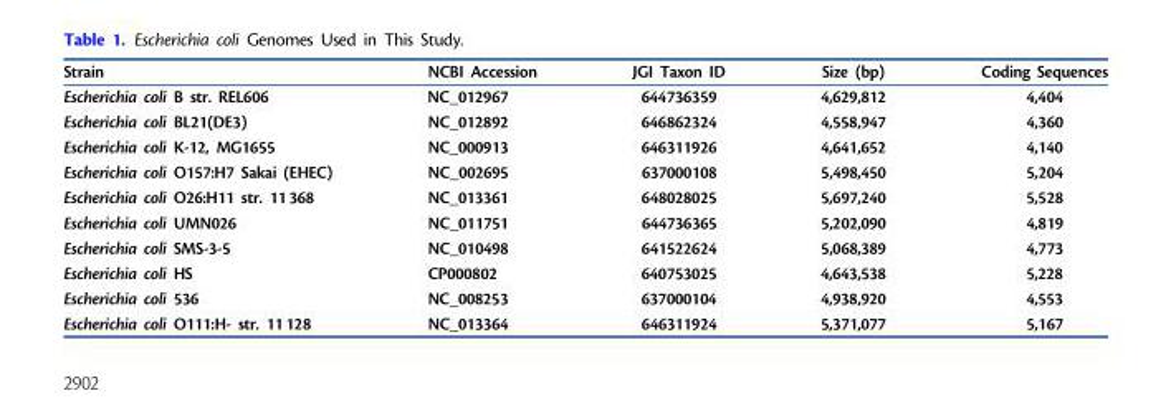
<table><thead><tr><td>Strain</td><td>NCBI Accession</td><td>JGI Taxon ID</td><td>Size (bp)</td><td>Coding Sequences</td></tr></thead><tbody><tr><td>Escherichia coli B str. REL606</td><td>NC_012967</td><td>644736359</td><td>4,629,812</td><td>4,404</td></tr><tr><td>Escherichia coli BL21(DE3)</td><td>NC_012892</td><td>646862324</td><td>4,558,947</td><td>4,360</td></tr><tr><td>Escherichia coli K-12, MG1655</td><td>NC_000913</td><td>646311926</td><td>4,641,652</td><td>4,140</td></tr><tr><td>Escherichia coli O157:H7 Sakai (EHEC)</td><td>NC_002695</td><td>637000108</td><td>5,498,450</td><td>5,204</td></tr><tr><td>Escherichia coli O26:H11 str. 11368</td><td>NC_013361</td><td>648028025</td><td>5,697,240</td><td>5,528</td></tr><tr><td>Escherichia coli UMN026</td><td>NC_011751</td><td>644736365</td><td>5,202,090</td><td>4,819</td></tr><tr><td>Escherichia coli SMS-3-5</td><td>NC_010498</td><td>641522624</td><td>5,068,389</td><td>4,773</td></tr><tr><td>Escherichia coli HS</td><td>CP000802</td><td>640753025</td><td>4,643,538</td><td>5,228</td></tr><tr><td>Escherichia coli 536</td><td>NC_008253</td><td>637000104</td><td>4,938,920</td><td>4,553</td></tr><tr><td>Escherichia coli O111:H- str. 11128</td><td>NC_013364</td><td>646311924</td><td>5,371,077</td><td>5,167</td></tr></tbody></table>